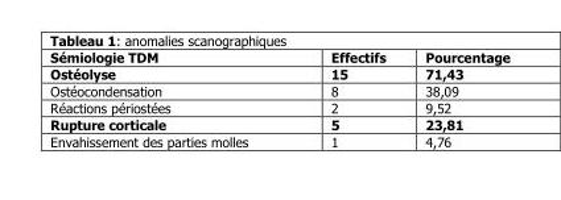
<table><thead><tr><td>Sémiologie TDM</td><td>Effectifs</td><td>Pourcentage</td></tr></thead><tbody><tr><td>Ostéolyse</td><td>15</td><td>71,43</td></tr><tr><td>Ostéocondensation</td><td>8</td><td>38,09</td></tr><tr><td>Réactions périostées</td><td>2</td><td>9,52</td></tr><tr><td>Rupture corticale</td><td>5</td><td>23,81</td></tr><tr><td>Envahissement des parties molles</td><td>1</td><td>4,76</td></tr></tbody></table>